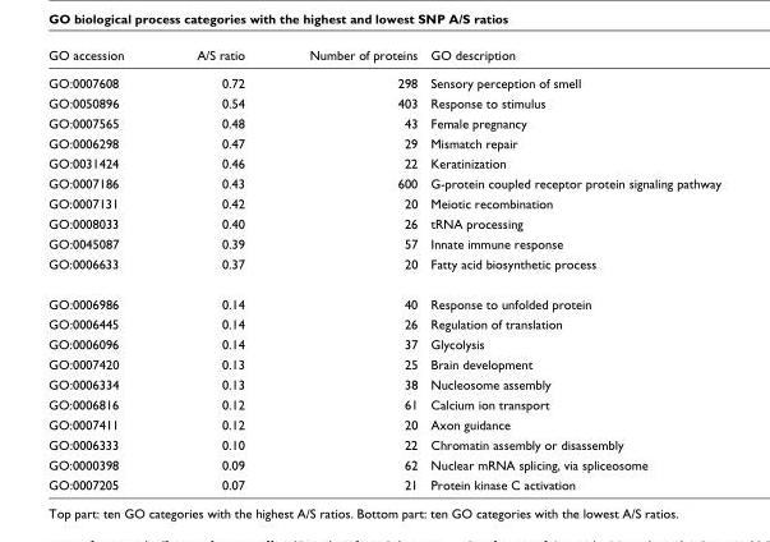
<table><thead><tr><td>GO accession</td><td>A/S ratio</td><td>Number of proteins</td><td>GO description</td></tr></thead><tbody><tr><td>GO:0007608</td><td>0.72</td><td>298</td><td>Sensory perception of smell</td></tr><tr><td>GO:0050896</td><td>0.54</td><td>403</td><td>Response to stimulus</td></tr><tr><td>GO:0007565</td><td>0.48</td><td>43</td><td>Female pregnancy</td></tr><tr><td>GO:0006298</td><td>0.47</td><td>29</td><td>Mismatch repair</td></tr><tr><td>GO:0031424</td><td>0.46</td><td>22</td><td>Keratinization</td></tr><tr><td>GO:0007186</td><td>0.43</td><td>600</td><td>G-protein coupled receptor protein signaling pathway</td></tr><tr><td>GO:0007131</td><td>0.42</td><td>20</td><td>Meiotic recombination</td></tr><tr><td>GO:0008033</td><td>0.40</td><td>26</td><td>tRNA processing</td></tr><tr><td>GO:0045087</td><td>0.39</td><td>57</td><td>Innate immune response</td></tr><tr><td>GO:0006633</td><td>0.37</td><td>20</td><td>Fatty acid biosynthetic process</td></tr><tr><td>GO:0006986</td><td>0.14</td><td>40</td><td>Response to unfolded protein</td></tr><tr><td>GO:0006445</td><td>0.14</td><td>26</td><td>Regulation of translation</td></tr><tr><td>GO:0006096</td><td>0.14</td><td>37</td><td>Glycolysis</td></tr><tr><td>GO:0007420</td><td>0.13</td><td>25</td><td>Brain development</td></tr><tr><td>GO:0006334</td><td>0.13</td><td>38</td><td>Nucleosome assembly</td></tr><tr><td>GO:0006816</td><td>0.12</td><td>61</td><td>Calcium ion transport</td></tr><tr><td>GO:0007411</td><td>0.12</td><td>20</td><td>Axon guidance</td></tr><tr><td>GO:0006333</td><td>0.10</td><td>22</td><td>Chromatin assembly or disassembly</td></tr><tr><td>GO:0000398</td><td>0.09</td><td>62</td><td>Nuclear mRNA splicing, via spliceosome</td></tr><tr><td>GO:0007205</td><td>0.07</td><td>21</td><td>Protein kinase C activation</td></tr></tbody></table>